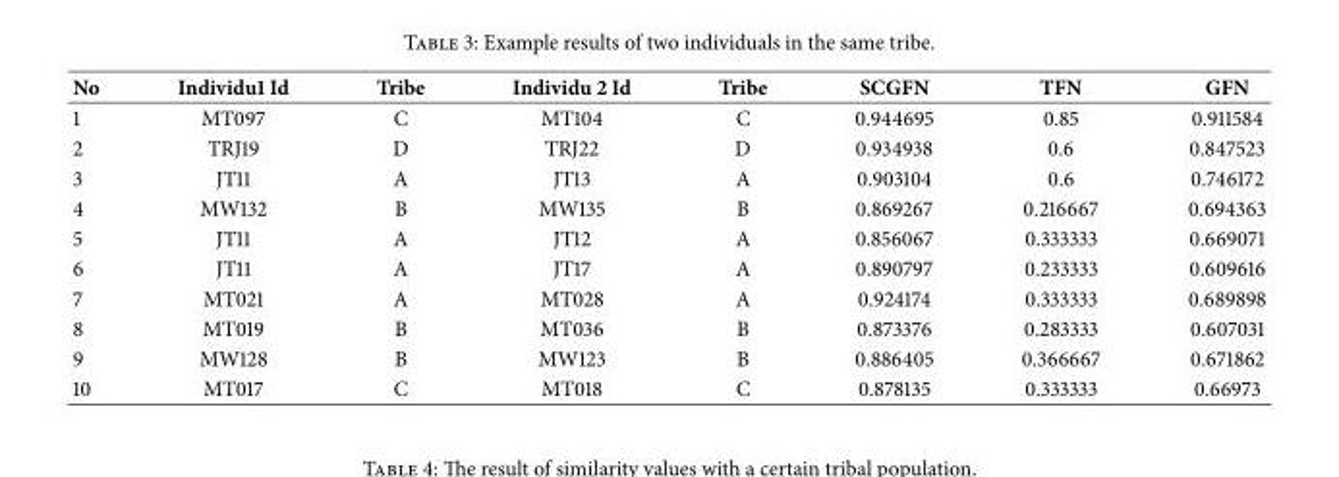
<table><thead><tr><td>No</td><td>Individu1 Id</td><td>Tribe</td><td>Individu 2 Id</td><td>Tribe</td><td>SCGFN</td><td>TFN</td><td>GFN</td></tr></thead><tbody><tr><td>1</td><td>MT097</td><td>C</td><td>MT104</td><td>C</td><td>0.944695</td><td>0.85</td><td>0.911584</td></tr><tr><td>2</td><td>TRJ19</td><td>D</td><td>TRJ22</td><td>D</td><td>0.934938</td><td>0.6</td><td>0.847523</td></tr><tr><td>3</td><td>JT11</td><td>A</td><td>JT13</td><td>A</td><td>0.903104</td><td>0.6</td><td>0.746172</td></tr><tr><td>4</td><td>MW132</td><td>B</td><td>MW135</td><td>B</td><td>0.869267</td><td>0.216667</td><td>0.694363</td></tr><tr><td>5</td><td>JT11</td><td>A</td><td>JT12</td><td>A</td><td>0.856067</td><td>0.333333</td><td>0.669071</td></tr><tr><td>6</td><td>JT11</td><td>A</td><td>JT17</td><td>A</td><td>0.890797</td><td>0.233333</td><td>0.609616</td></tr><tr><td>7</td><td>MT021</td><td>A</td><td>MT028</td><td>A</td><td>0.924174</td><td>0.333333</td><td>0.689898</td></tr><tr><td>8</td><td>MT019</td><td>B</td><td>MT036</td><td>B</td><td>0.873376</td><td>0.283333</td><td>0.607031</td></tr><tr><td>9</td><td>MW128</td><td>B</td><td>MW123</td><td>B</td><td>0.886405</td><td>0.366667</td><td>0.671862</td></tr><tr><td>10</td><td>MT017</td><td>C</td><td>MT018</td><td>C</td><td>0.878135</td><td>0.333333</td><td>0.66973</td></tr></tbody></table>